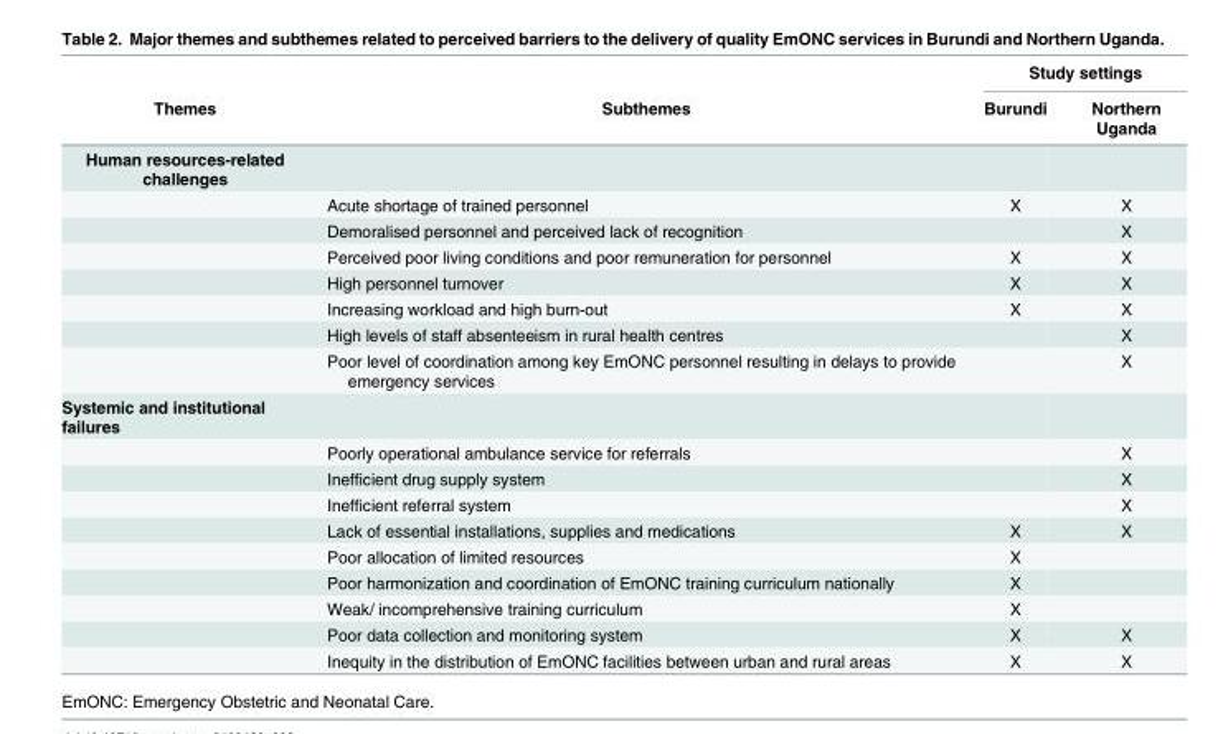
<table><thead><tr><td rowspan="2">Themes</td><td rowspan="2">Subthemes</td><td colspan="2">Study settings</td></tr><tr><td>Burundi</td><td>Northern Uganda</td></tr></thead><tbody><tr><td colspan="4">Human resources-related challenges</td></tr><tr><td></td><td>Acute shortage of trained personnel</td><td>X</td><td>X</td></tr><tr><td></td><td>Demoralised personnel and perceived lack of recognition</td><td></td><td>X</td></tr><tr><td></td><td>Perceived poor living conditions and poor remuneration for personnel</td><td>X</td><td>X</td></tr><tr><td></td><td>High personnel turnover</td><td>X</td><td>X</td></tr><tr><td></td><td>Increasing workload and high burn-out</td><td>X</td><td>X</td></tr><tr><td></td><td>High levels of staff absenteeism in rural health centres</td><td></td><td>X</td></tr><tr><td></td><td>Poor level of coordination among key EmONC personnel resulting in delays to provide emergency services</td><td></td><td>X</td></tr><tr><td colspan="4">Systemic and institutional failures</td></tr><tr><td></td><td>Poorly operational ambulance service for referrals</td><td></td><td>X</td></tr><tr><td></td><td>Inefficient drug supply system</td><td></td><td>X</td></tr><tr><td></td><td>Inefficient referral system</td><td></td><td>X</td></tr><tr><td></td><td>Lack of essential installations, supplies and medications</td><td>X</td><td>X</td></tr><tr><td></td><td>Poor allocation of limited resources</td><td>X</td><td></td></tr><tr><td></td><td>Poor harmonization and coordination of EmONC training curriculum nationally</td><td>X</td><td></td></tr><tr><td></td><td>Weak/ incomprehensive training curriculum</td><td>X</td><td></td></tr><tr><td></td><td>Poor data collection and monitoring system</td><td>X</td><td>X</td></tr><tr><td></td><td>Inequity in the distribution of EmONC facilities between urban and rural areas</td><td>X</td><td>X</td></tr></tbody></table>